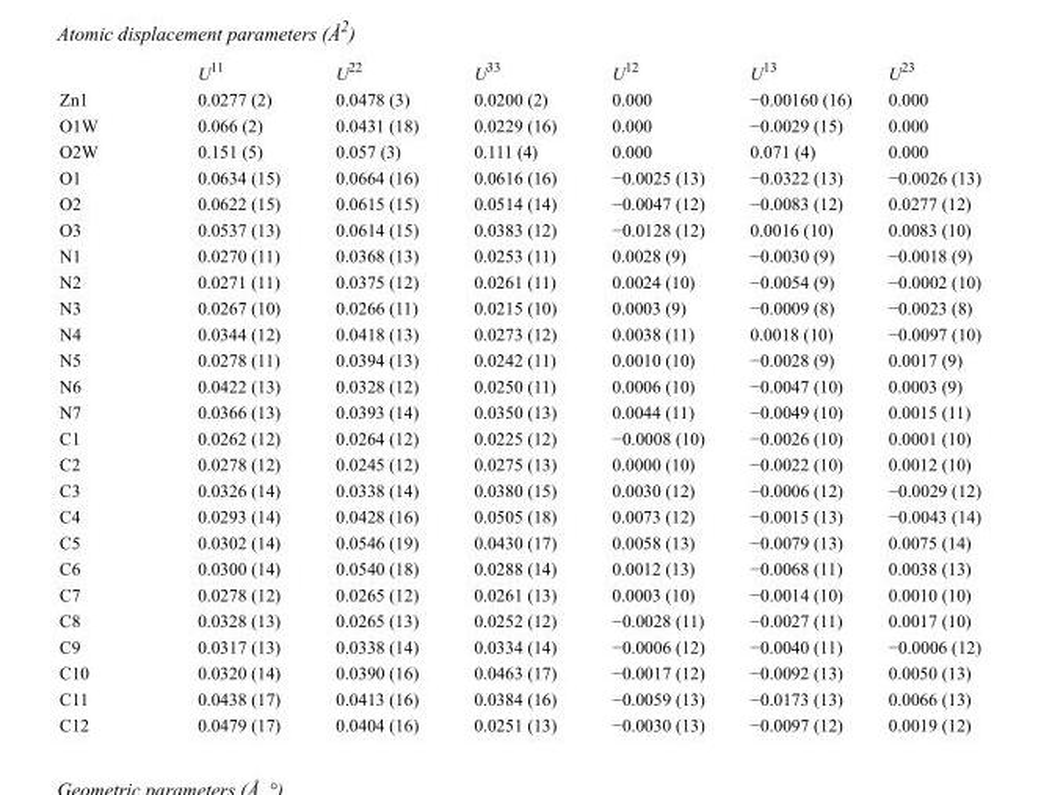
<table><thead><tr><td></td><td>U<sup>11</sup></td><td>U<sup>22</sup></td><td>U<sup>33</sup></td><td>U<sup>12</sup></td><td>U<sup>13</sup></td><td>U<sup>23</sup></td></tr></thead><tbody><tr><td>Zn1</td><td>0.0277 (2)</td><td>0.0478 (3)</td><td>0.0200 (2)</td><td>0.000</td><td>−0.00160 (16)</td><td>0.000</td></tr><tr><td>O1W</td><td>0.066 (2)</td><td>0.0431 (18)</td><td>0.0229 (16)</td><td>0.000</td><td>−0.0029 (15)</td><td>0.000</td></tr><tr><td>O2W</td><td>0.151 (5)</td><td>0.057 (3)</td><td>0.111 (4)</td><td>0.000</td><td>0.071 (4)</td><td>0.000</td></tr><tr><td>O1</td><td>0.0634 (15)</td><td>0.0664 (16)</td><td>0.0616 (16)</td><td>−0.0025 (13)</td><td>−0.0322 (13)</td><td>−0.0026 (13)</td></tr><tr><td>O2</td><td>0.0622 (15)</td><td>0.0615 (15)</td><td>0.0514 (14)</td><td>−0.0047 (12)</td><td>−0.0083 (12)</td><td>0.0277 (12)</td></tr><tr><td>O3</td><td>0.0537 (13)</td><td>0.0614 (15)</td><td>0.0383 (12)</td><td>−0.0128 (12)</td><td>0.0016 (10)</td><td>0.0083 (10)</td></tr><tr><td>N1</td><td>0.0270 (11)</td><td>0.0368 (13)</td><td>0.0253 (11)</td><td>0.0028 (9)</td><td>−0.0030 (9)</td><td>−0.0018 (9)</td></tr><tr><td>N2</td><td>0.0271 (11)</td><td>0.0375 (12)</td><td>0.0261 (11)</td><td>0.0024 (10)</td><td>−0.0054 (9)</td><td>−0.0002 (10)</td></tr><tr><td>N3</td><td>0.0267 (10)</td><td>0.0266 (11)</td><td>0.0215 (10)</td><td>0.0003 (9)</td><td>−0.0009 (8)</td><td>−0.0023 (8)</td></tr><tr><td>N4</td><td>0.0344 (12)</td><td>0.0418 (13)</td><td>0.0273 (12)</td><td>0.0038 (11)</td><td>0.0018 (10)</td><td>−0.0097 (10)</td></tr><tr><td>N5</td><td>0.0278 (11)</td><td>0.0394 (13)</td><td>0.0242 (11)</td><td>0.0010 (10)</td><td>−0.0028 (9)</td><td>0.0017 (9)</td></tr><tr><td>N6</td><td>0.0422 (13)</td><td>0.0328 (12)</td><td>0.0250 (11)</td><td>0.0006 (10)</td><td>−0.0047 (10)</td><td>0.0003 (9)</td></tr><tr><td>N7</td><td>0.0366 (13)</td><td>0.0393 (14)</td><td>0.0350 (13)</td><td>0.0044 (11)</td><td>−0.0049 (10)</td><td>0.0015 (11)</td></tr><tr><td>C1</td><td>0.0262 (12)</td><td>0.0264 (12)</td><td>0.0225 (12)</td><td>−0.0008 (10)</td><td>−0.0026 (10)</td><td>0.0001 (10)</td></tr><tr><td>C2</td><td>0.0278 (12)</td><td>0.0245 (12)</td><td>0.0275 (13)</td><td>0.0000 (10)</td><td>−0.0022 (10)</td><td>0.0012 (10)</td></tr><tr><td>C3</td><td>0.0326 (14)</td><td>0.0338 (14)</td><td>0.0380 (15)</td><td>0.0030 (12)</td><td>−0.0006 (12)</td><td>−0.0029 (12)</td></tr><tr><td>C4</td><td>0.0293 (14)</td><td>0.0428 (16)</td><td>0.0505 (18)</td><td>0.0073 (12)</td><td>−0.0015 (13)</td><td>−0.0043 (14)</td></tr><tr><td>C5</td><td>0.0302 (14)</td><td>0.0546 (19)</td><td>0.0430 (17)</td><td>0.0058 (13)</td><td>−0.0079 (13)</td><td>0.0075 (14)</td></tr><tr><td>C6</td><td>0.0300 (14)</td><td>0.0540 (18)</td><td>0.0288 (14)</td><td>0.0012 (13)</td><td>−0.0068 (11)</td><td>0.0038 (13)</td></tr><tr><td>C7</td><td>0.0278 (12)</td><td>0.0265 (12)</td><td>0.0261 (13)</td><td>0.0003 (10)</td><td>−0.0014 (10)</td><td>0.0010 (10)</td></tr><tr><td>C8</td><td>0.0328 (13)</td><td>0.0265 (13)</td><td>0.0252 (12)</td><td>−0.0028 (11)</td><td>−0.0027 (11)</td><td>0.0017 (10)</td></tr><tr><td>C9</td><td>0.0317 (13)</td><td>0.0338 (14)</td><td>0.0334 (14)</td><td>−0.0006 (12)</td><td>−0.0040 (11)</td><td>−0.0006 (12)</td></tr><tr><td>C10</td><td>0.0320 (14)</td><td>0.0390 (16)</td><td>0.0463 (17)</td><td>−0.0017 (12)</td><td>−0.0092 (13)</td><td>0.0050 (13)</td></tr><tr><td>C11</td><td>0.0438 (17)</td><td>0.0413 (16)</td><td>0.0384 (16)</td><td>−0.0059 (13)</td><td>−0.0173 (13)</td><td>0.0066 (13)</td></tr><tr><td>C12</td><td>0.0479 (17)</td><td>0.0404 (16)</td><td>0.0251 (13)</td><td>−0.0030 (13)</td><td>−0.0097 (12)</td><td>0.0019 (12)</td></tr></tbody></table>